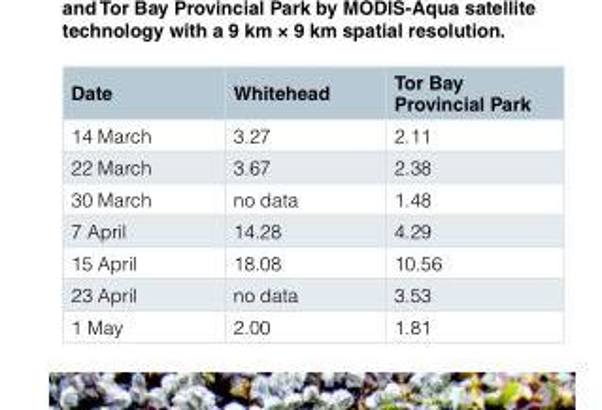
<table><thead><tr><td>Date</td><td>Whitehead</td><td>Tor Bay Provincial Park</td></tr></thead><tbody><tr><td>14 March</td><td>3.27</td><td>2.11</td></tr><tr><td>22 March</td><td>3.67</td><td>2.38</td></tr><tr><td>30 March</td><td>no data</td><td>1.48</td></tr><tr><td>7 April</td><td>14.28</td><td>4.29</td></tr><tr><td>15 April</td><td>18.08</td><td>10.56</td></tr><tr><td>23 April</td><td>no data</td><td>3.53</td></tr><tr><td>1 May</td><td>2.00</td><td>1.81</td></tr></tbody></table>